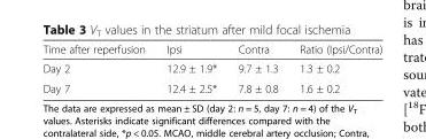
<table><thead><tr><td>Time after reperfusion</td><td>Ipsi</td><td>Contra</td><td>Ratio (Ipsi/Contra)</td></tr></thead><tbody><tr><td>Day 2</td><td>12.9 ± 1.9*</td><td>9.7 ± 1.3</td><td>1.3 ± 0.2</td></tr><tr><td>Day 7</td><td>12.4 ± 2.5*</td><td>7.8 ± 0.8</td><td>1.6 ± 0.2</td></tr></tbody></table>